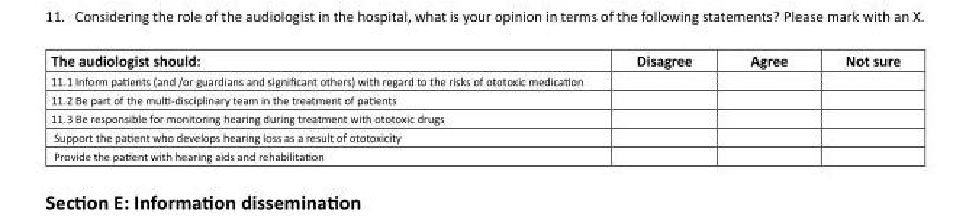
<table><thead><tr><td>The audiologist should:</td><td>Disagree</td><td>Agree</td><td>Not sure</td></tr></thead><tbody><tr><td colspan="4">11.1 Inform patients (and /or guardians and significant others) with regard to the risks of ototoxic medication</td></tr><tr><td colspan="4">11.2 Be part of the multi-disciplinary team in the treatment of patients</td></tr><tr><td colspan="4">11.3 Be responsible for monitoring hearing during treatment with ototoxic drugs</td></tr><tr><td colspan="4">Support the patient who develops hearing loss as a result of ototoxicity</td></tr><tr><td>Provide the patient with hearing aids and rehabilitation</td><td></td><td></td><td></td></tr></tbody></table>